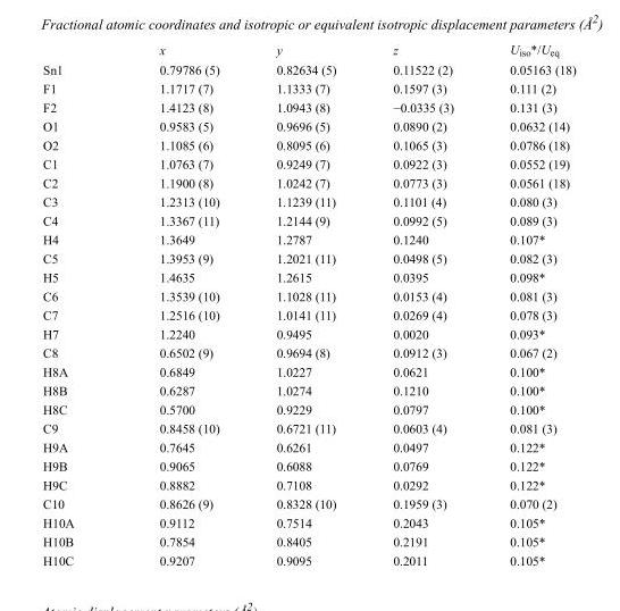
<table><thead><tr><td></td><td>x</td><td>y</td><td>z</td><td>U<sub>iso</sub>*/U<sub>eq</sub></td></tr></thead><tbody><tr><td>Sn1</td><td>0.79786 (5)</td><td>0.82634 (5)</td><td>0.11522 (2)</td><td>0.05163 (18)</td></tr><tr><td>F1</td><td>1.1717 (7)</td><td>1.1333 (7)</td><td>0.1597 (3)</td><td>0.111 (2)</td></tr><tr><td>F2</td><td>1.4123 (8)</td><td>1.0943 (8)</td><td>−0.0335 (3)</td><td>0.131 (3)</td></tr><tr><td>O1</td><td>0.9583 (5)</td><td>0.9696 (5)</td><td>0.0890 (2)</td><td>0.0632 (14)</td></tr><tr><td>O2</td><td>1.1085 (6)</td><td>0.8095 (6)</td><td>0.1065 (3)</td><td>0.0786 (18)</td></tr><tr><td>C1</td><td>1.0763 (7)</td><td>0.9249 (7)</td><td>0.0922 (3)</td><td>0.0552 (19)</td></tr><tr><td>C2</td><td>1.1900 (8)</td><td>1.0242 (7)</td><td>0.0773 (3)</td><td>0.0561 (18)</td></tr><tr><td>C3</td><td>1.2313 (10)</td><td>1.1239 (11)</td><td>0.1101 (4)</td><td>0.080 (3)</td></tr><tr><td>C4</td><td>1.3367 (11)</td><td>1.2144 (9)</td><td>0.0992 (5)</td><td>0.089 (3)</td></tr><tr><td>H4</td><td>1.3649</td><td>1.2787</td><td>0.1240</td><td>0.107*</td></tr><tr><td>C5</td><td>1.3953 (9)</td><td>1.2021 (11)</td><td>0.0498 (5)</td><td>0.082 (3)</td></tr><tr><td>H5</td><td>1.4635</td><td>1.2615</td><td>0.0395</td><td>0.098*</td></tr><tr><td>C6</td><td>1.3539 (10)</td><td>1.1028 (11)</td><td>0.0153 (4)</td><td>0.081 (3)</td></tr><tr><td>C7</td><td>1.2516 (10)</td><td>1.0141 (11)</td><td>0.0269 (4)</td><td>0.078 (3)</td></tr><tr><td>H7</td><td>1.2240</td><td>0.9495</td><td>0.0020</td><td>0.093*</td></tr><tr><td>C8</td><td>0.6502 (9)</td><td>0.9694 (8)</td><td>0.0912 (3)</td><td>0.067 (2)</td></tr><tr><td>H8A</td><td>0.6849</td><td>1.0227</td><td>0.0621</td><td>0.100*</td></tr><tr><td>H8B</td><td>0.6287</td><td>1.0274</td><td>0.1210</td><td>0.100*</td></tr><tr><td>H8C</td><td>0.5700</td><td>0.9229</td><td>0.0797</td><td>0.100*</td></tr><tr><td>C9</td><td>0.8458 (10)</td><td>0.6721 (11)</td><td>0.0603 (4)</td><td>0.081 (3)</td></tr><tr><td>H9A</td><td>0.7645</td><td>0.6261</td><td>0.0497</td><td>0.122*</td></tr><tr><td>H9B</td><td>0.9065</td><td>0.6088</td><td>0.0769</td><td>0.122*</td></tr><tr><td>H9C</td><td>0.8882</td><td>0.7108</td><td>0.0292</td><td>0.122*</td></tr><tr><td>C10</td><td>0.8626 (9)</td><td>0.8328 (10)</td><td>0.1959 (3)</td><td>0.070 (2)</td></tr><tr><td>H10A</td><td>0.9112</td><td>0.7514</td><td>0.2043</td><td>0.105*</td></tr><tr><td>H10B</td><td>0.7854</td><td>0.8405</td><td>0.2191</td><td>0.105*</td></tr><tr><td>H10C</td><td>0.9207</td><td>0.9095</td><td>0.2011</td><td>0.105*</td></tr></tbody></table>